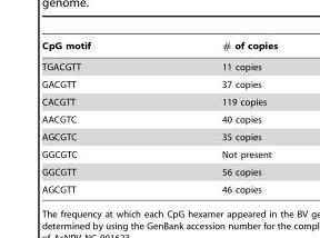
<table><thead><tr><td>CpG motif</td><td># of copies</td></tr></thead><tbody><tr><td>TGACGTT</td><td>11 copies</td></tr><tr><td>GACGTT</td><td>37 copies</td></tr><tr><td>CACGTT</td><td>119 copies</td></tr><tr><td>AACGTC</td><td>40 copies</td></tr><tr><td>AGCGTC</td><td>35 copies</td></tr><tr><td>GGCGTC</td><td>Not present</td></tr><tr><td>GGCGTT</td><td>56 copies</td></tr><tr><td>AGCGTT</td><td>46 copies</td></tr></tbody></table>